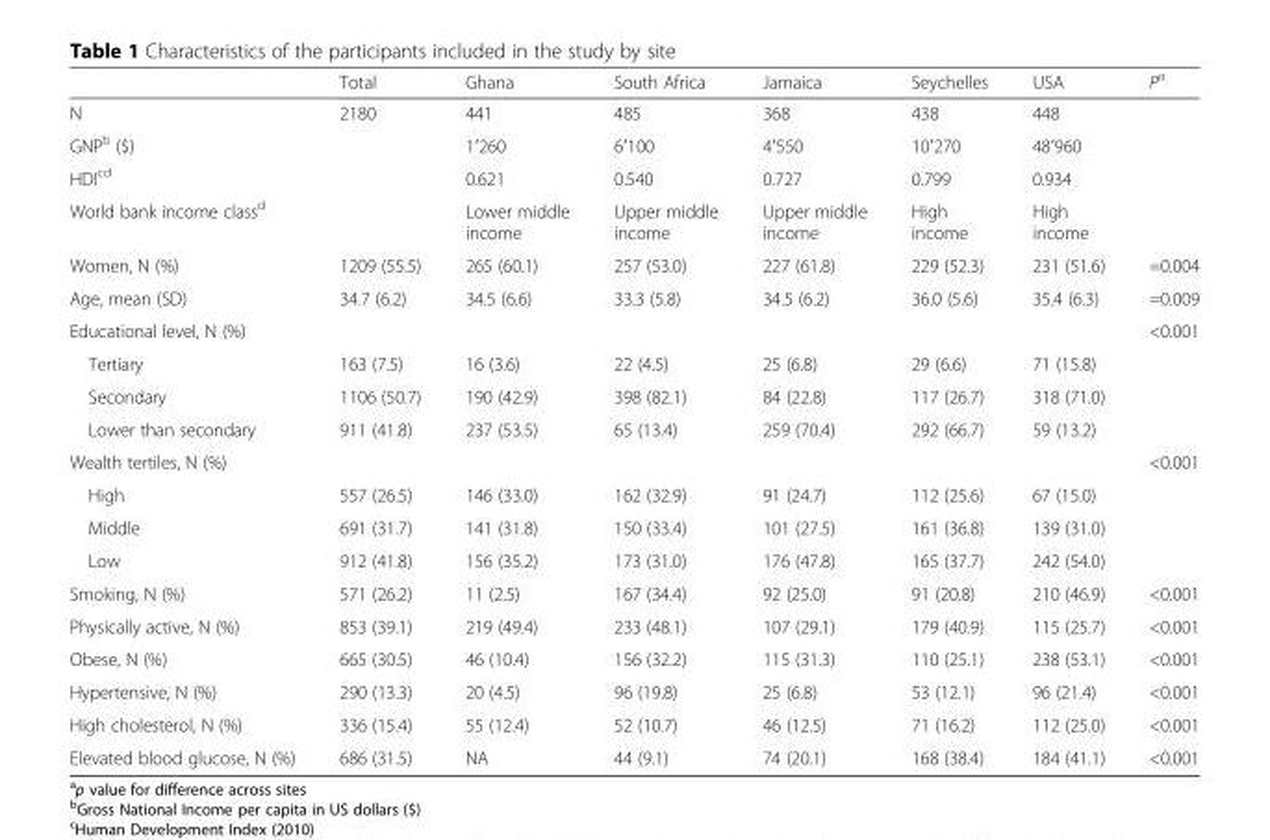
<table><thead><tr><td></td><td>Total</td><td>Ghana</td><td>South Africa</td><td>Jamaica</td><td>Seychelles</td><td>USA</td><td>P<sup>a</sup></td></tr></thead><tbody><tr><td>N</td><td>2180</td><td>441</td><td>485</td><td>368</td><td>438</td><td>448</td><td></td></tr><tr><td>GNP<sup>b</sup> ($)</td><td></td><td>1′260</td><td>6′100</td><td>4′550</td><td>10′270</td><td>48′960</td><td></td></tr><tr><td>HDI<sup>cd</sup></td><td></td><td>0.621</td><td>0.540</td><td>0.727</td><td>0.799</td><td>0.934</td><td></td></tr><tr><td>World bank income class<sup>d</sup></td><td></td><td>Lower middle income</td><td>Upper middle income</td><td>Upper middle income</td><td>High income</td><td>High income</td><td></td></tr><tr><td>Women, N (%)</td><td>1209 (55.5)</td><td>265 (60.1)</td><td>257 (53.0)</td><td>227 (61.8)</td><td>229 (52.3)</td><td>231 (51.6)</td><td>=0.004</td></tr><tr><td>Age, mean (SD)</td><td>34.7 (6.2)</td><td>34.5 (6.6)</td><td>33.3 (5.8)</td><td>34.5 (6.2)</td><td>36.0 (5.6)</td><td>35.4 (6.3)</td><td>=0.009</td></tr><tr><td>Educational level, N (%)</td><td></td><td></td><td></td><td></td><td></td><td></td><td>&lt;0.001</td></tr><tr><td>Tertiary</td><td>163 (7.5)</td><td>16 (3.6)</td><td>22 (4.5)</td><td>25 (6.8)</td><td>29 (6.6)</td><td>71 (15.8)</td><td></td></tr><tr><td>Secondary</td><td>1106 (50.7)</td><td>190 (42.9)</td><td>398 (82.1)</td><td>84 (22.8)</td><td>117 (26.7)</td><td>318 (71.0)</td><td></td></tr><tr><td>Lower than secondary</td><td>911 (41.8)</td><td>237 (53.5)</td><td>65 (13.4)</td><td>259 (70.4)</td><td>292 (66.7)</td><td>59 (13.2)</td><td></td></tr><tr><td>Wealth tertiles, N (%)</td><td></td><td></td><td></td><td></td><td></td><td></td><td>&lt;0.001</td></tr><tr><td>High</td><td>557 (26.5)</td><td>146 (33.0)</td><td>162 (32.9)</td><td>91 (24.7)</td><td>112 (25.6)</td><td>67 (15.0)</td><td></td></tr><tr><td>Middle</td><td>691 (31.7)</td><td>141 (31.8)</td><td>150 (33.4)</td><td>101 (27.5)</td><td>161 (36.8)</td><td>139 (31.0)</td><td></td></tr><tr><td>Low</td><td>912 (41.8)</td><td>156 (35.2)</td><td>173 (31.0)</td><td>176 (47.8)</td><td>165 (37.7)</td><td>242 (54.0)</td><td></td></tr><tr><td>Smoking, N (%)</td><td>571 (26.2)</td><td>11 (2.5)</td><td>167 (34.4)</td><td>92 (25.0)</td><td>91 (20.8)</td><td>210 (46.9)</td><td>&lt;0.001</td></tr><tr><td>Physically active, N (%)</td><td>853 (39.1)</td><td>219 (49.4)</td><td>233 (48.1)</td><td>107 (29.1)</td><td>179 (40.9)</td><td>115 (25.7)</td><td>&lt;0.001</td></tr><tr><td>Obese, N (%)</td><td>665 (30.5)</td><td>46 (10.4)</td><td>156 (32.2)</td><td>115 (31.3)</td><td>110 (25.1)</td><td>238 (53.1)</td><td>&lt;0.001</td></tr><tr><td>Hypertensive, N (%)</td><td>290 (13.3)</td><td>20 (4.5)</td><td>96 (19.8)</td><td>25 (6.8)</td><td>53 (12.1)</td><td>96 (21.4)</td><td>&lt;0.001</td></tr><tr><td>High cholesterol, N (%)</td><td>336 (15.4)</td><td>55 (12.4)</td><td>52 (10.7)</td><td>46 (12.5)</td><td>71 (16.2)</td><td>112 (25.0)</td><td>&lt;0.001</td></tr><tr><td>Elevated blood glucose, N (%)</td><td>686 (31.5)</td><td>NA</td><td>44 (9.1)</td><td>74 (20.1)</td><td>168 (38.4)</td><td>184 (41.1)</td><td>&lt;0.001</td></tr></tbody></table>